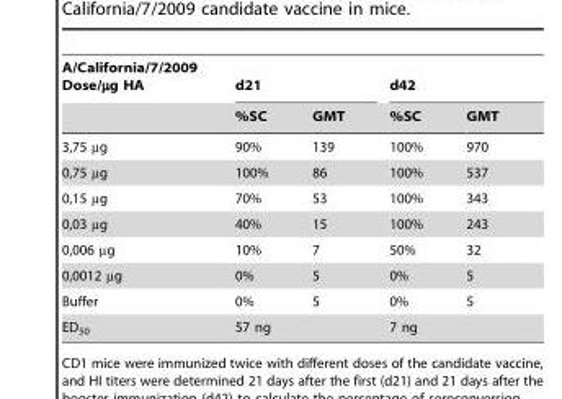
<table><thead><tr><td rowspan="2">A/California/7/2009 Dose/µg HA</td><td colspan="2">d21</td><td colspan="2">d42</td></tr><tr><td>%SC</td><td>GMT</td><td>%SC</td><td>GMT</td></tr></thead><tbody><tr><td>3,75 µg</td><td>90%</td><td>139</td><td>100%</td><td>970</td></tr><tr><td>0,75 µg</td><td>100%</td><td>86</td><td>100%</td><td>537</td></tr><tr><td>0,15 µg</td><td>70%</td><td>53</td><td>100%</td><td>343</td></tr><tr><td>0,03 µg</td><td>40%</td><td>15</td><td>100%</td><td>243</td></tr><tr><td>0,006 µg</td><td>10%</td><td>7</td><td>50%</td><td>32</td></tr><tr><td>0,0012 µg</td><td>0%</td><td>5</td><td>0%</td><td>5</td></tr><tr><td>Buffer</td><td>0%</td><td>5</td><td>0%</td><td>5</td></tr><tr><td>ED<sub>50</sub></td><td colspan="2">57 ng</td><td colspan="2">7 ng</td></tr></tbody></table>